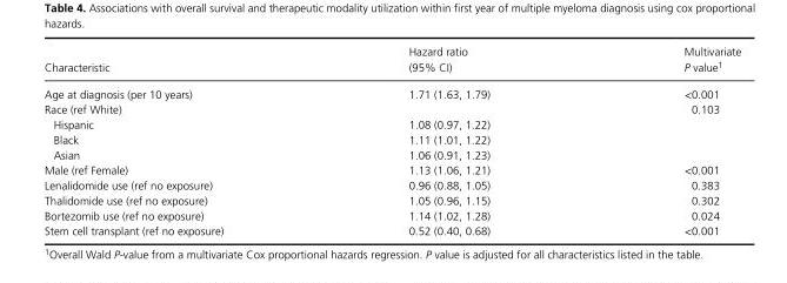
<table><thead><tr><td>Characteristic</td><td>Hazard ratio (95% CI)</td><td>Multivariate P value1</td></tr></thead><tbody><tr><td>Age at diagnosis (per 10 years)</td><td>1.71 (1.63, 1.79)</td><td>&lt;0.001</td></tr><tr><td>Race (ref White)</td><td></td><td>0.103</td></tr><tr><td>Hispanic</td><td>1.08 (0.97, 1.22)</td><td></td></tr><tr><td>Black</td><td>1.11 (1.01, 1.22)</td><td></td></tr><tr><td>Asian</td><td>1.06 (0.91, 1.23)</td><td></td></tr><tr><td>Male (ref Female)</td><td>1.13 (1.06, 1.21)</td><td>&lt;0.001</td></tr><tr><td>Lenalidomide use (ref no exposure)</td><td>0.96 (0.88, 1.05)</td><td>0.383</td></tr><tr><td>Thalidomide use (ref no exposure)</td><td>1.05 (0.96, 1.15)</td><td>0.302</td></tr><tr><td>Bortezomib use (ref no exposure)</td><td>1.14 (1.02, 1.28)</td><td>0.024</td></tr><tr><td>Stem cell transplant (ref no exposure)</td><td>0.52 (0.40, 0.68)</td><td>&lt;0.001</td></tr></tbody></table>